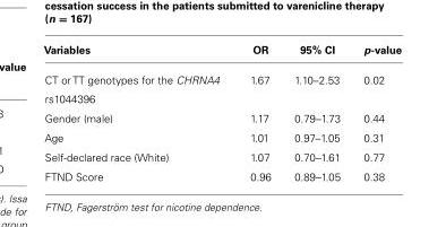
<table><thead><tr><td>Variables</td><td>OR</td><td>95% CI</td><td>p-value</td></tr></thead><tbody><tr><td>CT or TT genotypes for the CHRNA4 rs1044396</td><td>1.67</td><td>1.10–2.53</td><td>0.02</td></tr><tr><td>Gender (male)</td><td>1.17</td><td>0.79–1.73</td><td>0.44</td></tr><tr><td>Age</td><td>1.01</td><td>0.97–1.05</td><td>0.31</td></tr><tr><td>Self-declared race (White)</td><td>1.07</td><td>0.70–1.61</td><td>0.77</td></tr><tr><td>FTND Score</td><td>0.96</td><td>0.89–1.05</td><td>0.38</td></tr></tbody></table>